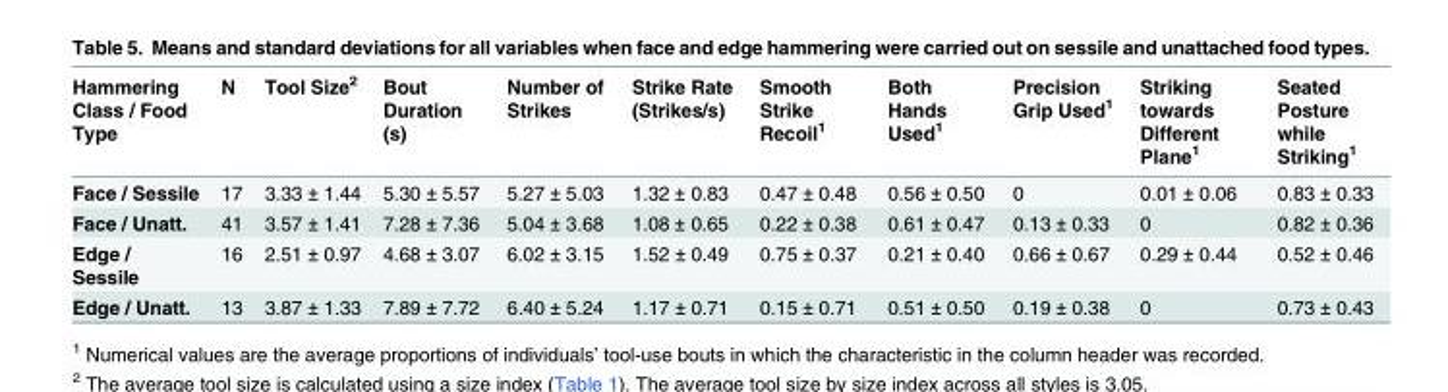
<table><thead><tr><td>Hammering Class / Food Type</td><td>N</td><td>Tool Size<sup>2</sup></td><td>Bout Duration (s)</td><td>Number of Strikes</td><td>Strike Rate (Strikes/s)</td><td>Smooth Strike Recoil<sup>1</sup></td><td>Both Hands Used<sup>1</sup></td><td>Precision Grip Used<sup>1</sup></td><td>Striking towards Different Plane<sup>1</sup></td><td>Seated Posture while Striking<sup>1</sup></td></tr></thead><tbody><tr><td>Face / Sessile</td><td>17</td><td>3.33 ± 1.44</td><td>5.30 ± 5.57</td><td>5.27 ± 5.03</td><td>1.32 ± 0.83</td><td>0.47 ± 0.48</td><td>0.56 ± 0.50</td><td>0</td><td>0.01 ± 0.06</td><td>0.83 ± 0.33</td></tr><tr><td>Face / Unatt.</td><td>41</td><td>3.57 ± 1.41</td><td>7.28 ± 7.36</td><td>5.04 ± 3.68</td><td>1.08 ± 0.65</td><td>0.22 ± 0.38</td><td>0.61 ± 0.47</td><td>0.13 ± 0.33</td><td>0</td><td>0.82 ± 0.36</td></tr><tr><td>Edge / Sessile</td><td>16</td><td>2.51 ± 0.97</td><td>4.68 ± 3.07</td><td>6.02 ± 3.15</td><td>1.52 ± 0.49</td><td>0.75 ± 0.37</td><td>0.21 ± 0.40</td><td>0.66 ± 0.67</td><td>0.29 ± 0.44</td><td>0.52 ± 0.46</td></tr><tr><td>Edge / Unatt.</td><td>13</td><td>3.87 ± 1.33</td><td>7.89 ± 7.72</td><td>6.40 ± 5.24</td><td>1.17 ± 0.71</td><td>0.15 ± 0.71</td><td>0.51 ± 0.50</td><td>0.19 ± 0.38</td><td>0</td><td>0.73 ± 0.43</td></tr></tbody></table>